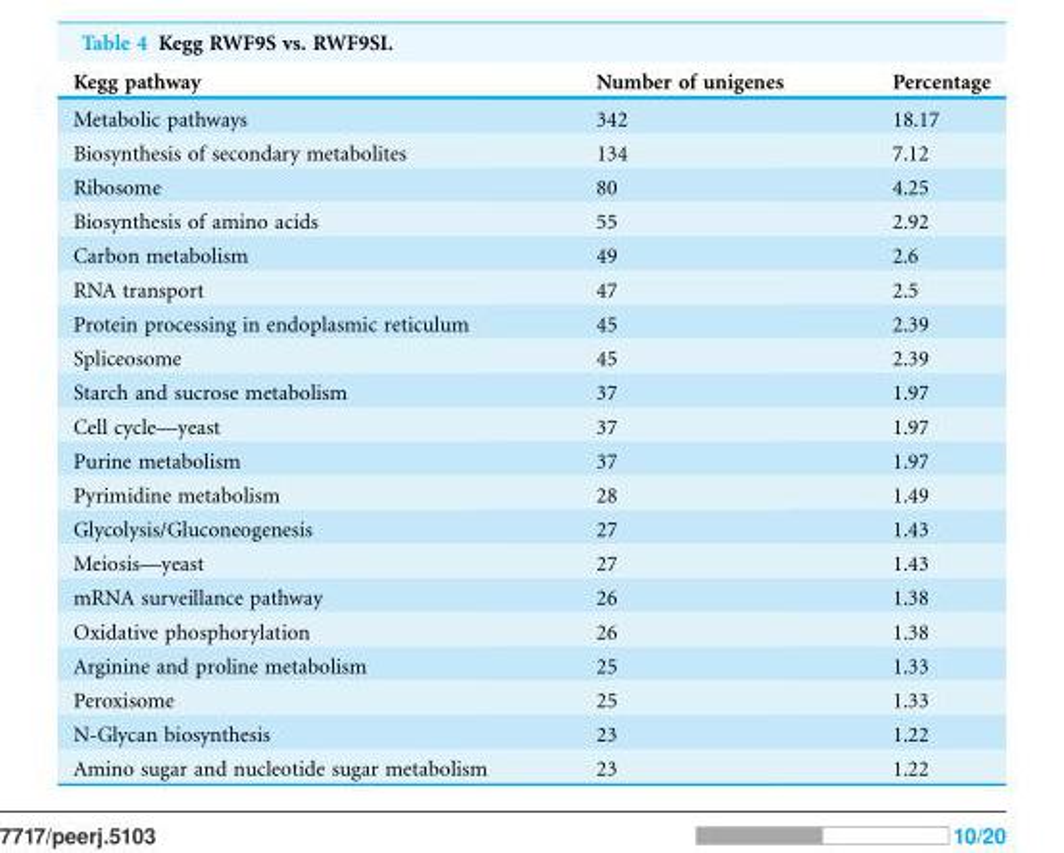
<table><thead><tr><td>Kegg pathway</td><td>Number of unigenes</td><td>Percentage</td></tr></thead><tbody><tr><td>Metabolic pathways</td><td>342</td><td>18.17</td></tr><tr><td>Biosynthesis of secondary metabolites</td><td>134</td><td>7.12</td></tr><tr><td>Ribosome</td><td>80</td><td>4.25</td></tr><tr><td>Biosynthesis of amino acids</td><td>55</td><td>2.92</td></tr><tr><td>Carbon metabolism</td><td>49</td><td>2.6</td></tr><tr><td>RNA transport</td><td>47</td><td>2.5</td></tr><tr><td>Protein processing in endoplasmic reticulum</td><td>45</td><td>2.39</td></tr><tr><td>Spliceosome</td><td>45</td><td>2.39</td></tr><tr><td>Starch and sucrose metabolism</td><td>37</td><td>1.97</td></tr><tr><td>Cell cycle—yeast</td><td>37</td><td>1.97</td></tr><tr><td>Purine metabolism</td><td>37</td><td>1.97</td></tr><tr><td>Pyrimidine metabolism</td><td>28</td><td>1.49</td></tr><tr><td>Glycolysis/Gluconeogenesis</td><td>27</td><td>1.43</td></tr><tr><td>Meiosis—yeast</td><td>27</td><td>1.43</td></tr><tr><td>mRNA surveillance pathway</td><td>26</td><td>1.38</td></tr><tr><td>Oxidative phosphorylation</td><td>26</td><td>1.38</td></tr><tr><td>Arginine and proline metabolism</td><td>25</td><td>1.33</td></tr><tr><td>Peroxisome</td><td>25</td><td>1.33</td></tr><tr><td>N-Glycan biosynthesis</td><td>23</td><td>1.22</td></tr><tr><td>Amino sugar and nucleotide sugar metabolism</td><td>23</td><td>1.22</td></tr></tbody></table>